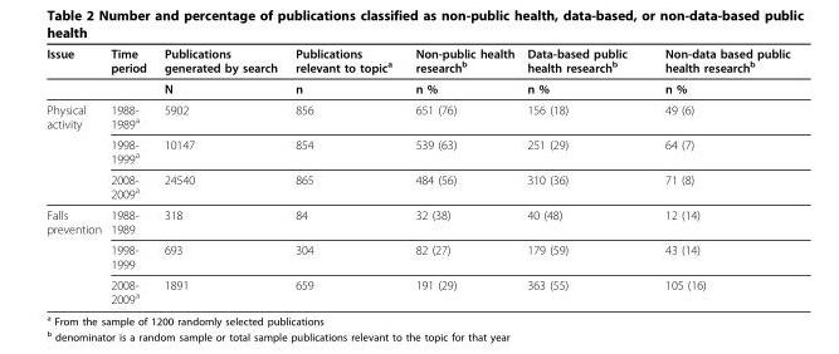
<table><thead><tr><td>Issue</td><td>Time period</td><td>Publications generated by search</td><td>Publications relevant to topic<sup>a</sup></td><td>Non-public health research<sup>b</sup></td><td>Data-based public health research<sup>b</sup></td><td>Non-data based public health research<sup>b</sup></td></tr></thead><tbody><tr><td></td><td></td><td>N</td><td>n</td><td>n %</td><td>n %</td><td>n %</td></tr><tr><td rowspan="3">Physical activity</td><td>1988- 1989<sup>a</sup></td><td>5902</td><td>856</td><td>651 (76)</td><td>156 (18)</td><td>49 (6)</td></tr><tr><td>1998- 1999<sup>a</sup></td><td>10147</td><td>854</td><td>539 (63)</td><td>251 (29)</td><td>64 (7)</td></tr><tr><td>2008- 2009<sup>a</sup></td><td>24540</td><td>865</td><td>484 (56)</td><td>310 (36)</td><td>71 (8)</td></tr><tr><td rowspan="3">Falls prevention</td><td>1988- 1989</td><td>318</td><td>84</td><td>32 (38)</td><td>40 (48)</td><td>12 (14)</td></tr><tr><td>1998- 1999</td><td>693</td><td>304</td><td>82 (27)</td><td>179 (59)</td><td>43 (14)</td></tr><tr><td>2008- 2009<sup>a</sup></td><td>1891</td><td>659</td><td>191 (29)</td><td>363 (55)</td><td>105 (16)</td></tr></tbody></table>